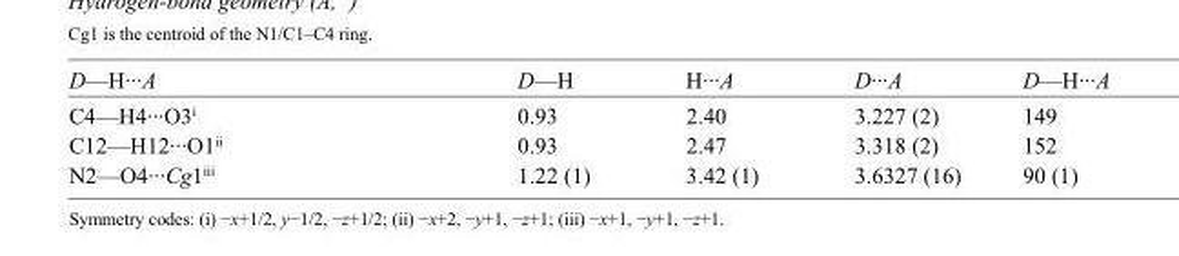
<table><tbody><tr><td>D—H···A</td><td>D—H</td><td>H···A</td><td>D···A</td><td>D—H···A</td></tr><tr><td>C4—H4···O3<sup>i</sup></td><td>0.93</td><td>2.40</td><td>3.227 (2)</td><td>149</td></tr><tr><td>C12—H12···O1<sup>ii</sup></td><td>0.93</td><td>2.47</td><td>3.318 (2)</td><td>152</td></tr><tr><td>N2—O4···Cg1<sup>iii</sup></td><td>1.22 (1)</td><td>3.42 (1)</td><td>3.6327 (16)</td><td>90 (1)</td></tr></tbody></table>